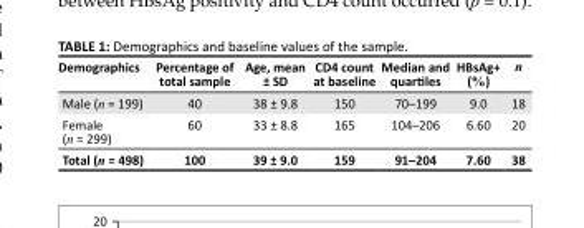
<table><thead><tr><td>Demographics</td><td>Percentage of total sample</td><td>Age, mean ± SD</td><td>CD4 count at baseline</td><td>Median and quartiles</td><td>HBsAg+ (%)</td><td>n</td></tr></thead><tbody><tr><td>Male (n = 199)</td><td>40</td><td>38 ± 9.8</td><td>150</td><td>70–199</td><td>9.0</td><td>18</td></tr><tr><td>Female (n = 299)</td><td>60</td><td>33 ± 8.8</td><td>165</td><td>104–206</td><td>6.60</td><td>20</td></tr><tr><td>Total (n = 498)</td><td>100</td><td>39 ± 9.0</td><td>159</td><td>91–204</td><td>7.60</td><td>38</td></tr></tbody></table>